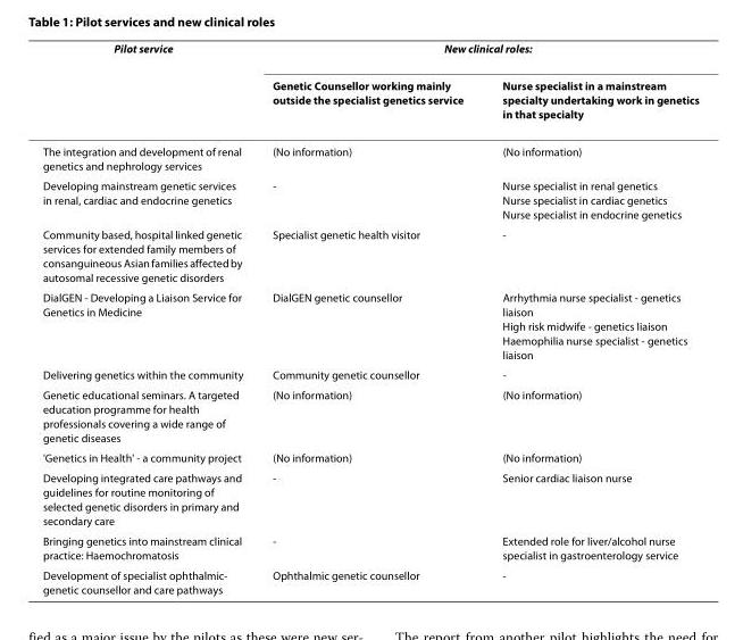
<table><thead><tr><td rowspan="2">Pilot service</td><td colspan="2">New clinical roles:</td></tr><tr><td>Genetic Counsellor working mainly outside the specialist genetics service</td><td>Nurse specialist in a mainstream specialty undertaking work in genetics in that specialty</td></tr></thead><tbody><tr><td>The integration and development of renal genetics and nephrology services</td><td>(No information)</td><td>(No information)</td></tr><tr><td>Developing mainstream genetic services in renal, cardiac and endocrine genetics</td><td>-</td><td>Nurse specialist in renal genetics Nurse specialist in cardiac genetics Nurse specialist in endocrine genetics</td></tr><tr><td>Community based, hospital linked genetic services for extended family members of consanguineous Asian families affected by autosomal recessive genetic disorders</td><td>Specialist genetic health visitor</td><td>-</td></tr><tr><td>DialGEN - Developing a Liaison Service for Genetics in Medicine</td><td>DialGEN genetic counsellor</td><td>Arrhythmia nurse specialist - genetics liaison High risk midwife - genetics liaison Haemophilia nurse specialist - genetics liaison</td></tr><tr><td>Delivering genetics within the community</td><td>Community genetic counsellor</td><td>-</td></tr><tr><td>Genetic educational seminars. A targeted education programme for health professionals covering a wide range of genetic diseases</td><td>(No information)</td><td>(No information)</td></tr><tr><td>&#x27;Genetics in Health&#x27; - a community project</td><td>(No information)</td><td>(No information)</td></tr><tr><td>Developing integrated care pathways and guidelines for routine monitoring of selected genetic disorders in primary and secondary care</td><td>-</td><td>Senior cardiac liaison nurse</td></tr><tr><td>Bringing genetics into mainstream clinical practice: Haemochromatosis</td><td>-</td><td>Extended role for liver/alcohol nurse specialist in gastroenterology service</td></tr><tr><td>Development of specialist ophthalmic- genetic counsellor and care pathways</td><td>Ophthalmic genetic counsellor</td><td>-</td></tr></tbody></table>